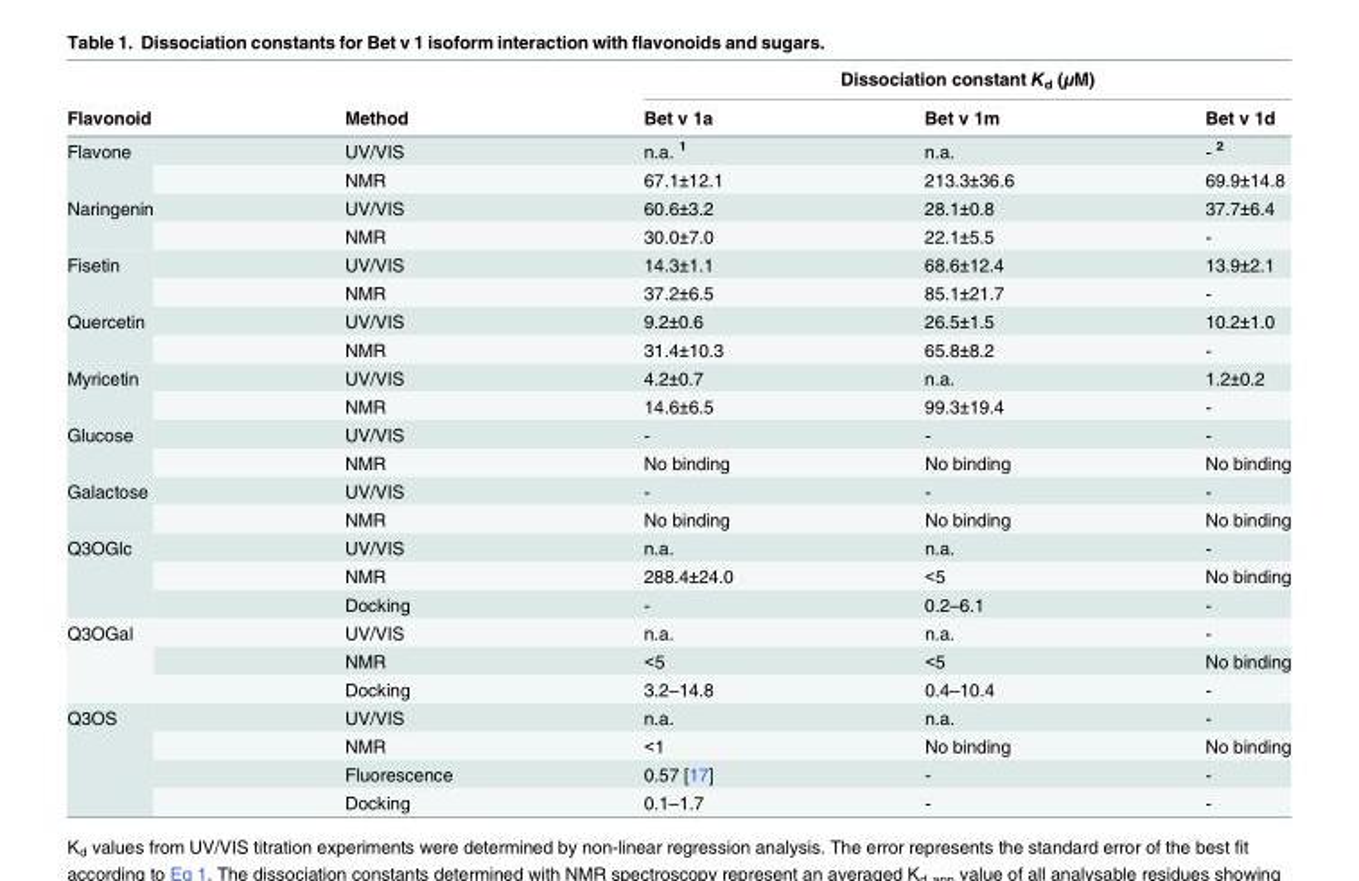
<table><thead><tr><td rowspan="2">Flavonoid</td><td rowspan="2">Method</td><td colspan="3">Dissociation constant K<sub>d</sub> (μM)</td></tr><tr><td>Bet v 1a</td><td>Bet v 1m</td><td>Bet v 1d</td></tr></thead><tbody><tr><td rowspan="2">Flavone</td><td>UV/VIS</td><td>n.a. <sup>1</sup></td><td>n.a.</td><td>- <sup>2</sup></td></tr><tr><td>NMR</td><td>67.1±12.1</td><td>213.3±36.6</td><td>69.9±14.8</td></tr><tr><td rowspan="2">Naringenin</td><td>UV/VIS</td><td>60.6±3.2</td><td>28.1±0.8</td><td>37.7±6.4</td></tr><tr><td>NMR</td><td>30.0±7.0</td><td>22.1±5.5</td><td>-</td></tr><tr><td rowspan="2">Fisetin</td><td>UV/VIS</td><td>14.3±1.1</td><td>68.6±12.4</td><td>13.9±2.1</td></tr><tr><td>NMR</td><td>37.2±6.5</td><td>85.1±21.7</td><td>-</td></tr><tr><td rowspan="2">Quercetin</td><td>UV/VIS</td><td>9.2±0.6</td><td>26.5±1.5</td><td>10.2±1.0</td></tr><tr><td>NMR</td><td>31.4±10.3</td><td>65.8±8.2</td><td>-</td></tr><tr><td rowspan="2">Myricetin</td><td>UV/VIS</td><td>4.2±0.7</td><td>n.a.</td><td>1.2±0.2</td></tr><tr><td>NMR</td><td>14.6±6.5</td><td>99.3±19.4</td><td>-</td></tr><tr><td rowspan="2">Glucose</td><td>UV/VIS</td><td>-</td><td>-</td><td>-</td></tr><tr><td>NMR</td><td>No binding</td><td>No binding</td><td>No binding</td></tr><tr><td rowspan="2">Galactose</td><td>UV/VIS</td><td>-</td><td>-</td><td>-</td></tr><tr><td>NMR</td><td>No binding</td><td>No binding</td><td>No binding</td></tr><tr><td rowspan="3">Q3OGlc</td><td>UV/VIS</td><td>n.a.</td><td>n.a.</td><td>-</td></tr><tr><td>NMR</td><td>288.4±24.0</td><td>&lt;5</td><td>No binding</td></tr><tr><td>Docking</td><td>-</td><td>0.2–6.1</td><td>-</td></tr><tr><td rowspan="3">Q3OGal</td><td>UV/VIS</td><td>n.a.</td><td>n.a.</td><td>-</td></tr><tr><td>NMR</td><td>&lt;5</td><td>&lt;5</td><td>No binding</td></tr><tr><td>Docking</td><td>3.2–14.8</td><td>0.4–10.4</td><td>-</td></tr><tr><td rowspan="4">Q3OS</td><td>UV/VIS</td><td>n.a.</td><td>n.a.</td><td>-</td></tr><tr><td>NMR</td><td>&lt;1</td><td>No binding</td><td>No binding</td></tr><tr><td>Fluorescence</td><td>0.57 [17]</td><td>-</td><td>-</td></tr><tr><td>Docking</td><td>0.1–1.7</td><td>-</td><td>-</td></tr></tbody></table>